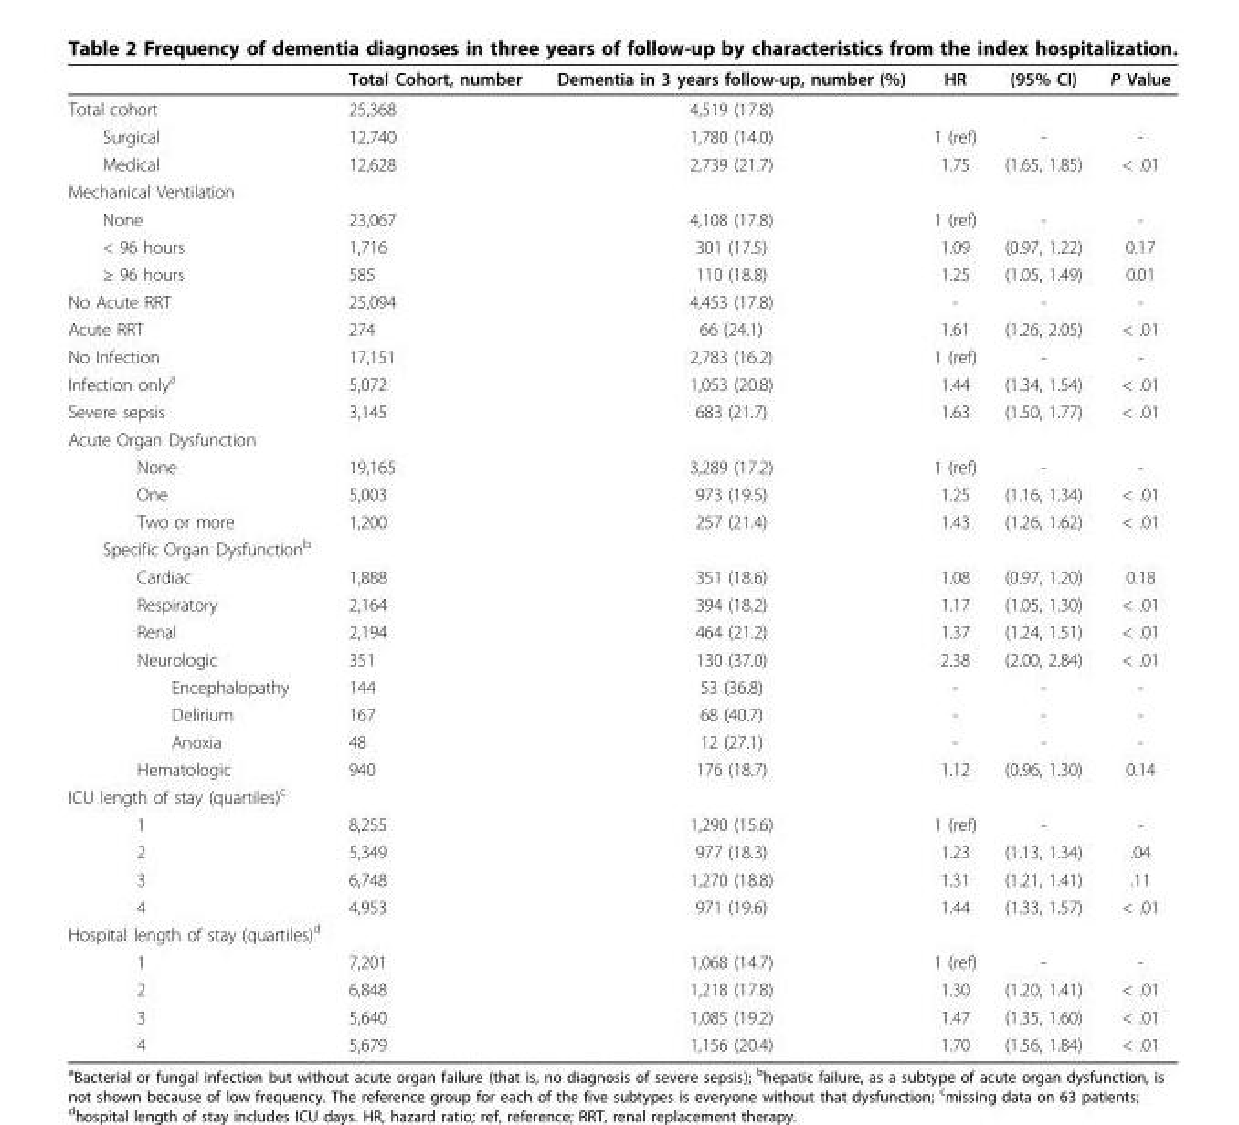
<table><thead><tr><td></td><td>Total Cohort, number</td><td>Dementia in 3 years follow-up, number (%)</td><td>HR</td><td>(95% CI)</td><td>P Value</td></tr></thead><tbody><tr><td>Total cohort</td><td>25,368</td><td>4,519 (17.8)</td><td></td><td></td><td></td></tr><tr><td>Surgical</td><td>12,740</td><td>1,780 (14.0)</td><td>1 (ref)</td><td>-</td><td>-</td></tr><tr><td>Medical</td><td>12,628</td><td>2,739 (21.7)</td><td>1.75</td><td>(1.65, 1.85)</td><td>&lt; .01</td></tr><tr><td colspan="6">Mechanical Ventilation</td></tr><tr><td>None</td><td>23,067</td><td>4,108 (17.8)</td><td>1 (ref)</td><td>-</td><td>-</td></tr><tr><td>&lt; 96 hours</td><td>1,716</td><td>301 (17.5)</td><td>1.09</td><td>(0.97, 1.22)</td><td>0.17</td></tr><tr><td>≥ 96 hours</td><td>585</td><td>110 (18.8)</td><td>1.25</td><td>(1.05, 1.49)</td><td>0.01</td></tr><tr><td>No Acute RRT</td><td>25,094</td><td>4,453 (17.8)</td><td>-</td><td>-</td><td>-</td></tr><tr><td>Acute RRT</td><td>274</td><td>66 (24.1)</td><td>1.61</td><td>(1.26, 2.05)</td><td>&lt; .01</td></tr><tr><td>No Infection</td><td>17,151</td><td>2,783 (16.2)</td><td>1 (ref)</td><td>-</td><td>-</td></tr><tr><td>Infection only<sup>a</sup></td><td>5,072</td><td>1,053 (20.8)</td><td>1.44</td><td>(1.34, 1.54)</td><td>&lt; .01</td></tr><tr><td>Severe sepsis</td><td>3,145</td><td>683 (21.7)</td><td>1.63</td><td>(1.50, 1.77)</td><td>&lt; .01</td></tr><tr><td colspan="6">Acute Organ Dysfunction</td></tr><tr><td>None</td><td>19,165</td><td>3,289 (17.2)</td><td>1 (ref)</td><td>-</td><td>-</td></tr><tr><td>One</td><td>5,003</td><td>973 (19.5)</td><td>1.25</td><td>(1.16, 1.34)</td><td>&lt; .01</td></tr><tr><td>Two or more</td><td>1,200</td><td>257 (21.4)</td><td>1.43</td><td>(1.26, 1.62)</td><td>&lt; .01</td></tr><tr><td colspan="6">Specific Organ Dysfunction<sup>b</sup></td></tr><tr><td>Cardiac</td><td>1,888</td><td>351 (18.6)</td><td>1.08</td><td>(0.97, 1.20)</td><td>0.18</td></tr><tr><td>Respiratory</td><td>2,164</td><td>394 (18.2)</td><td>1.17</td><td>(1.05, 1.30)</td><td>&lt; .01</td></tr><tr><td>Renal</td><td>2,194</td><td>464 (21.2)</td><td>1.37</td><td>(1.24, 1.51)</td><td>&lt; .01</td></tr><tr><td>Neurologic</td><td>351</td><td>130 (37.0)</td><td>2.38</td><td>(2.00, 2.84)</td><td>&lt; .01</td></tr><tr><td>Encephalopathy</td><td>144</td><td>53 (36.8)</td><td>-</td><td>-</td><td>-</td></tr><tr><td>Delirium</td><td>167</td><td>68 (40.7)</td><td>-</td><td>-</td><td>-</td></tr><tr><td>Anoxia</td><td>48</td><td>12 (27.1)</td><td>-</td><td>-</td><td>-</td></tr><tr><td>Hematologic</td><td>940</td><td>176 (18.7)</td><td>1.12</td><td>(0.96, 1.30)</td><td>0.14</td></tr><tr><td colspan="6">ICU length of stay (quartiles)<sup>c</sup></td></tr><tr><td>1</td><td>8,255</td><td>1,290 (15.6)</td><td>1 (ref)</td><td>-</td><td>-</td></tr><tr><td>2</td><td>5,349</td><td>977 (18.3)</td><td>1.23</td><td>(1.13, 1.34)</td><td>.04</td></tr><tr><td>3</td><td>6,748</td><td>1,270 (18.8)</td><td>1.31</td><td>(1.21, 1.41)</td><td>.11</td></tr><tr><td>4</td><td>4,953</td><td>971 (19.6)</td><td>1.44</td><td>(1.33, 1.57)</td><td>&lt; .01</td></tr><tr><td colspan="6">Hospital length of stay (quartiles)<sup>d</sup></td></tr><tr><td>1</td><td>7,201</td><td>1,068 (14.7)</td><td>1 (ref)</td><td>-</td><td>-</td></tr><tr><td>2</td><td>6,848</td><td>1,218 (17.8)</td><td>1.30</td><td>(1.20, 1.41)</td><td>&lt; .01</td></tr><tr><td>3</td><td>5,640</td><td>1,085 (19.2)</td><td>1.47</td><td>(1.35, 1.60)</td><td>&lt; .01</td></tr><tr><td>4</td><td>5,679</td><td>1,156 (20.4)</td><td>1.70</td><td>(1.56, 1.84)</td><td>&lt; .01</td></tr></tbody></table>